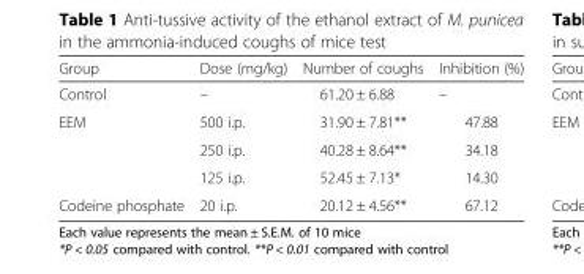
<table><thead><tr><td>Group</td><td>Dose (mg/kg)</td><td>Number of coughs</td><td>Inhibition (%)</td></tr></thead><tbody><tr><td>Control</td><td>–</td><td>61.20 ± 6.88</td><td>–</td></tr><tr><td rowspan="3">EEM</td><td>500 i.p.</td><td>31.90 ± 7.81**</td><td>47.88</td></tr><tr><td>250 i.p.</td><td>40.28 ± 8.64**</td><td>34.18</td></tr><tr><td>125 i.p.</td><td>52.45 ± 7.13*</td><td>14.30</td></tr><tr><td>Codeine phosphate</td><td>20 i.p.</td><td>20.12 ± 4.56**</td><td>67.12</td></tr></tbody></table>